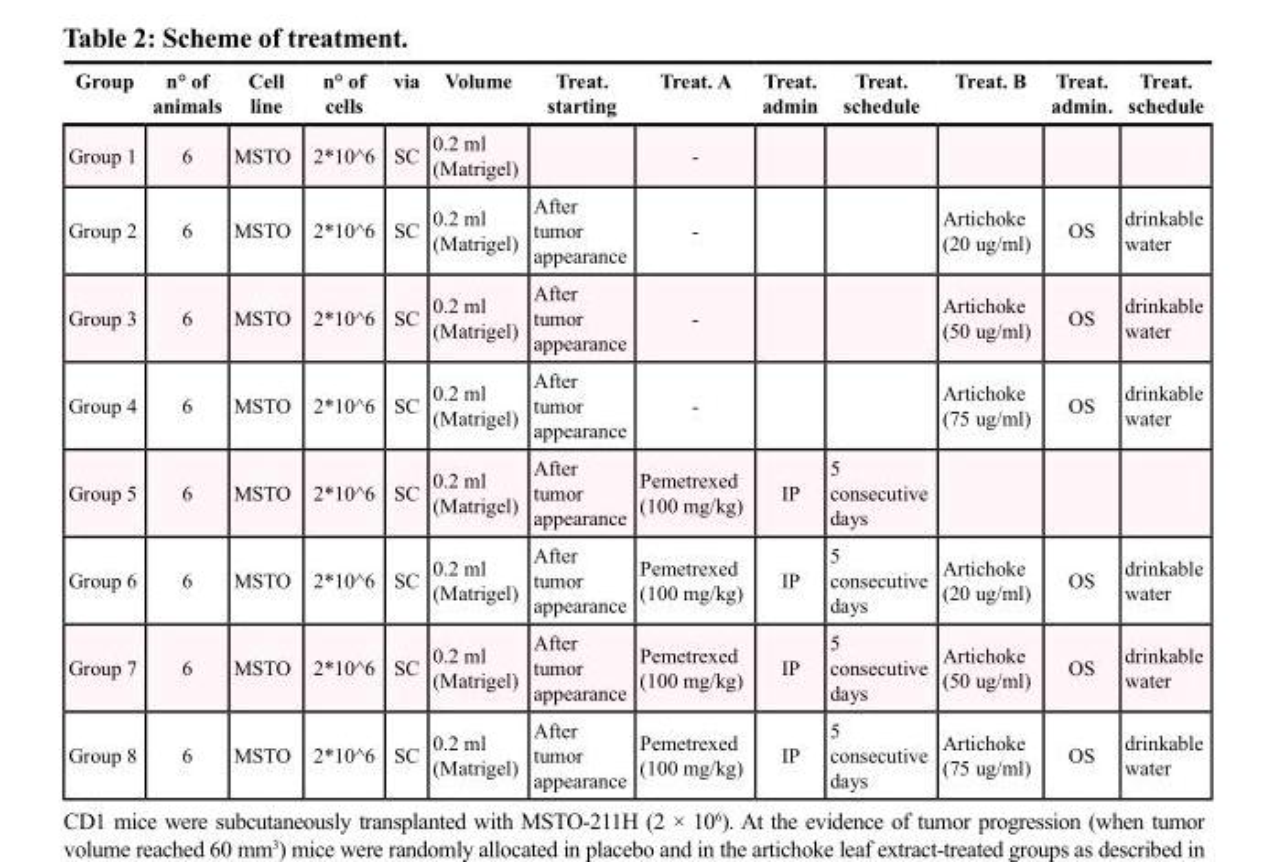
<table><thead><tr><td>Group</td><td>n° of animals</td><td>Cell line</td><td>n° of cells</td><td>via</td><td>Volume</td><td>Treat. starting</td><td>Treat. A</td><td>Treat. admin</td><td>Treat. schedule</td><td>Treat. B</td><td>Treat. admin.</td><td>Treat. schedule</td></tr></thead><tbody><tr><td>Group 1</td><td>6</td><td>MSTO</td><td>2*10^6</td><td>SC</td><td>0.2 ml (Matrigel)</td><td></td><td>-</td><td></td><td></td><td></td><td></td><td></td></tr><tr><td>Group 2</td><td>6</td><td>MSTO</td><td>2*10^6</td><td>SC</td><td>0.2 ml (Matrigel)</td><td>After tumor appearance</td><td>-</td><td></td><td></td><td>Artichoke (20 ug/ml)</td><td>OS</td><td>drinkable water</td></tr><tr><td>Group 3</td><td>6</td><td>MSTO</td><td>2*10^6</td><td>SC</td><td>0.2 ml (Matrigel)</td><td>After tumor appearance</td><td>-</td><td></td><td></td><td>Artichoke (50 ug/ml)</td><td>OS</td><td>drinkable water</td></tr><tr><td>Group 4</td><td>6</td><td>MSTO</td><td>2*10^6</td><td>SC</td><td>0.2 ml (Matrigel)</td><td>After tumor appearance</td><td>-</td><td></td><td></td><td>Artichoke (75 ug/ml)</td><td>OS</td><td>drinkable water</td></tr><tr><td>Group 5</td><td>6</td><td>MSTO</td><td>2*10^6</td><td>SC</td><td>0.2 ml (Matrigel)</td><td>After tumor appearance</td><td>Pemetrexed (100 mg/kg)</td><td>IP</td><td>5 consecutive days</td><td></td><td></td><td></td></tr><tr><td>Group 6</td><td>6</td><td>MSTO</td><td>2*10^6</td><td>SC</td><td>0.2 ml (Matrigel)</td><td>After tumor appearance</td><td>Pemetrexed (100 mg/kg)</td><td>IP</td><td>5 consecutive days</td><td>Artichoke (20 ug/ml)</td><td>OS</td><td>drinkable water</td></tr><tr><td>Group 7</td><td>6</td><td>MSTO</td><td>2*10^6</td><td>SC</td><td>0.2 ml (Matrigel)</td><td>After tumor appearance</td><td>Pemetrexed (100 mg/kg)</td><td>IP</td><td>5 consecutive days</td><td>Artichoke (50 ug/ml)</td><td>OS</td><td>drinkable water</td></tr><tr><td>Group 8</td><td>6</td><td>MSTO</td><td>2*10^6</td><td>SC</td><td>0.2 ml (Matrigel)</td><td>After tumor appearance</td><td>Pemetrexed (100 mg/kg)</td><td>IP</td><td>5 consecutive days</td><td>Artichoke (75 ug/ml)</td><td>OS</td><td>drinkable water</td></tr></tbody></table>